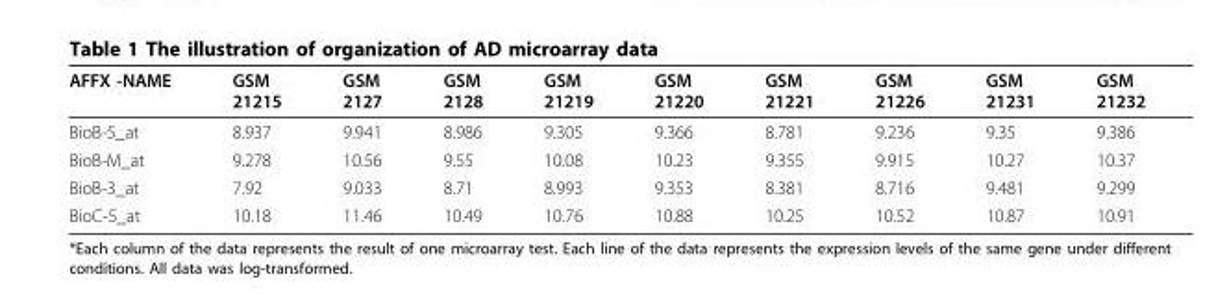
<table><thead><tr><td>AFFX -NAME</td><td>GSM 21215</td><td>GSM 2127</td><td>GSM 2128</td><td>GSM 21219</td><td>GSM 21220</td><td>GSM 21221</td><td>GSM 21226</td><td>GSM 21231</td><td>GSM 21232</td></tr></thead><tbody><tr><td>BioB-5_at</td><td>8.937</td><td>9.941</td><td>8.986</td><td>9.305</td><td>9.366</td><td>8.781</td><td>9.236</td><td>9.35</td><td>9.386</td></tr><tr><td>BioB-M_at</td><td>9.278</td><td>10.56</td><td>9.55</td><td>10.08</td><td>10.23</td><td>9.355</td><td>9.915</td><td>10.27</td><td>10.37</td></tr><tr><td>BioB-3_at</td><td>7.92</td><td>9.033</td><td>8.71</td><td>8.993</td><td>9.353</td><td>8.381</td><td>8.716</td><td>9.481</td><td>9.299</td></tr><tr><td>BioC-5_at</td><td>10.18</td><td>11.46</td><td>10.49</td><td>10.76</td><td>10.88</td><td>10.25</td><td>10.52</td><td>10.87</td><td>10.91</td></tr></tbody></table>